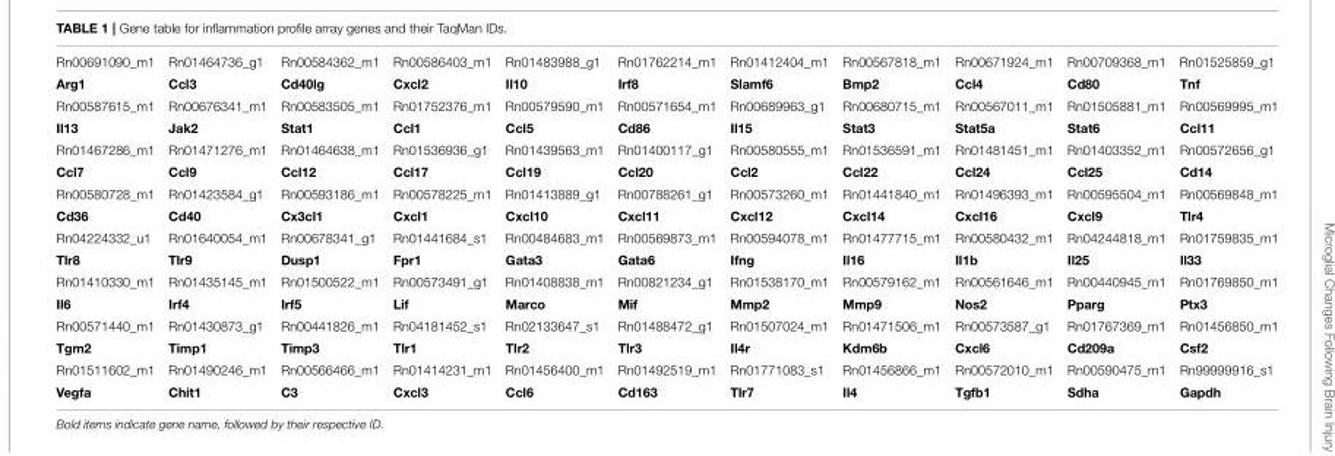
<table><tbody><tr><td>Rn00691090_m1</td><td>Rn01464736_g1</td><td>Rn00584362_m1</td><td>Rn00586403_m1</td><td>Rn01483988_g1</td><td>Rn01762214_m1</td><td>Rn01412404_m1</td><td>Rn00567818_m1</td><td>Rn00671924_m1</td><td>Rn00709368_m1</td><td>Rn01525859_g1</td></tr><tr><td>Arg1</td><td>Ccl3</td><td>Cd40lg</td><td>Cxcl2</td><td>Il10</td><td>Irf8</td><td>Slamf6</td><td>Bmp2</td><td>Ccl4</td><td>Cd80</td><td>Tnf</td></tr><tr><td>Rn00587615_m1</td><td>Rn00676341_m1</td><td>Rn00583505_m1</td><td>Rn01752376_m1</td><td>Rn00579590_m1</td><td>Rn00571654_m1</td><td>Rn00689963_g1</td><td>Rn00680715_m1</td><td>Rn00567011_m1</td><td>Rn01505881_m1</td><td>Rn00569995_m1</td></tr><tr><td>Il13</td><td>Jak2</td><td>Stat1</td><td>Ccl1</td><td>Ccl5</td><td>Cd86</td><td>Il15</td><td>Stat3</td><td>Stat5a</td><td>Stat6</td><td>Ccl11</td></tr><tr><td>Rn01467286_m1</td><td>Rn01471276_m1</td><td>Rn01464638_m1</td><td>Rn01536936_g1</td><td>Rn01439563_m1</td><td>Rn01400117_g1</td><td>Rn00580555_m1</td><td>Rn01536591_m1</td><td>Rn01481451_m1</td><td>Rn01403352_m1</td><td>Rn00572656_g1</td></tr><tr><td>Ccl7</td><td>Ccl9</td><td>Ccl12</td><td>Ccl17</td><td>Ccl19</td><td>Ccl20</td><td>Ccl2</td><td>Ccl22</td><td>Ccl24</td><td>Ccl25</td><td>Cd14</td></tr><tr><td>Rn00580728_m1</td><td>Rn01423584_g1</td><td>Rn00593186_m1</td><td>Rn00578225_m1</td><td>Rn01413889_g1</td><td>Rn00788261_g1</td><td>Rn00573260_m1</td><td>Rn01441840_m1</td><td>Rn01496393_m1</td><td>Rn00595504_m1</td><td>Rn00569848_m1</td></tr><tr><td>Cd36</td><td>Cd40</td><td>Cx3cl1</td><td>Cxcl1</td><td>Cxcl10</td><td>Cxcl11</td><td>Cxcl12</td><td>Cxcl14</td><td>Cxcl16</td><td>Cxcl9</td><td>Tlr4</td></tr><tr><td>Rn04224332_u1</td><td>Rn01640054_m1</td><td>Rn00678341_g1</td><td>Rn01441684_s1</td><td>Rn00484683_m1</td><td>Rn00569873_m1</td><td>Rn00594078_m1</td><td>Rn01477715_m1</td><td>Rn00580432_m1</td><td>Rn04244818_m1</td><td>Rn01759835_m1</td></tr><tr><td>Tlr8</td><td>Tlr9</td><td>Dusp1</td><td>Fpr1</td><td>Gata3</td><td>Gata6</td><td>Ifng</td><td>Il16</td><td>Il1b</td><td>Il25</td><td>Il33</td></tr><tr><td>Rn01410330_m1</td><td>Rn01435145_m1</td><td>Rn01500522_m1</td><td>Rn00573491_g1</td><td>Rn01408838_m1</td><td>Rn00821234_g1</td><td>Rn01538170_m1</td><td>Rn00579162_m1</td><td>Rn00561646_m1</td><td>Rn00440945_m1</td><td>Rn01769850_m1</td></tr><tr><td>Il6</td><td>Irf4</td><td>Irf5</td><td>Lif</td><td>Marco</td><td>Mif</td><td>Mmp2</td><td>Mmp9</td><td>Nos2</td><td>Pparg</td><td>Ptx3</td></tr><tr><td>Rn00571440_m1</td><td>Rn01430873_g1</td><td>Rn00441826_m1</td><td>Rn04181452_s1</td><td>Rn02133647_s1</td><td>Rn01488472_g1</td><td>Rn01507024_m1</td><td>Rn01471506_m1</td><td>Rn00573587_g1</td><td>Rn01767369_m1</td><td>Rn01456850_m1</td></tr><tr><td>Tgm2</td><td>Timp1</td><td>Timp3</td><td>Tlr1</td><td>Tlr2</td><td>Tlr3</td><td>Il4r</td><td>Kdm6b</td><td>Cxcl6</td><td>Cd209a</td><td>Csf2</td></tr><tr><td>Rn01511602_m1</td><td>Rn01490246_m1</td><td>Rn00566466_m1</td><td>Rn01414231_m1</td><td>Rn01456400_m1</td><td>Rn01492519_m1</td><td>Rn01771083_s1</td><td>Rn01456866_m1</td><td>Rn00572010_m1</td><td>Rn00590475_m1</td><td>Rn99999916_s1</td></tr><tr><td>Vegfa</td><td>Chit1</td><td>C3</td><td>Cxcl3</td><td>Ccl6</td><td>Cd163</td><td>Tlr7</td><td>Il4</td><td>Tgfb1</td><td>Sdha</td><td>Gapdh</td></tr></tbody></table>